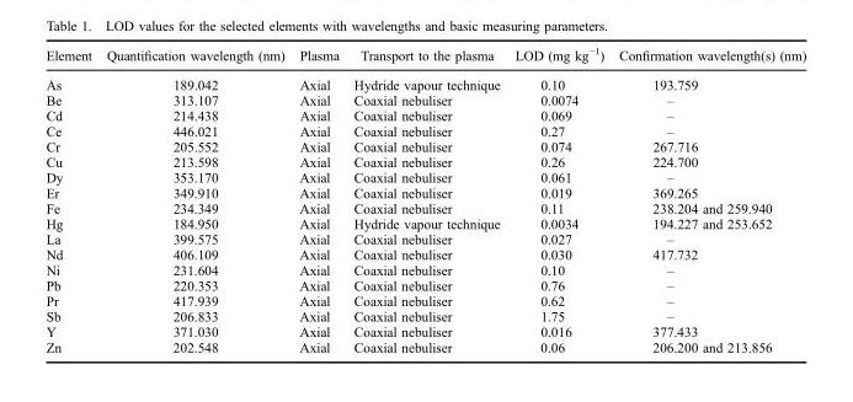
<table><thead><tr><td>Element</td><td>Quantification wavelength (nm)</td><td>Plasma</td><td>Transport to the plasma</td><td>LOD (mg kg<sup>−1</sup>)</td><td>Confirmation wavelength(s) (nm)</td></tr></thead><tbody><tr><td>As</td><td>189.042</td><td>Axial</td><td>Hydride vapour technique</td><td>0.10</td><td>193.759</td></tr><tr><td>Be</td><td>313.107</td><td>Axial</td><td>Coaxial nebuliser</td><td>0.0074</td><td>–</td></tr><tr><td>Cd</td><td>214.438</td><td>Axial</td><td>Coaxial nebuliser</td><td>0.069</td><td>–</td></tr><tr><td>Ce</td><td>446.021</td><td>Axial</td><td>Coaxial nebuliser</td><td>0.27</td><td>–</td></tr><tr><td>Cr</td><td>205.552</td><td>Axial</td><td>Coaxial nebuliser</td><td>0.074</td><td>267.716</td></tr><tr><td>Cu</td><td>213.598</td><td>Axial</td><td>Coaxial nebuliser</td><td>0.26</td><td>224.700</td></tr><tr><td>Dy</td><td>353.170</td><td>Axial</td><td>Coaxial nebuliser</td><td>0.061</td><td>–</td></tr><tr><td>Er</td><td>349.910</td><td>Axial</td><td>Coaxial nebuliser</td><td>0.019</td><td>369.265</td></tr><tr><td>Fe</td><td>234.349</td><td>Axial</td><td>Coaxial nebuliser</td><td>0.11</td><td>238.204 and 259.940</td></tr><tr><td>Hg</td><td>184.950</td><td>Axial</td><td>Hydride vapour technique</td><td>0.0034</td><td>194.227 and 253.652</td></tr><tr><td>La</td><td>399.575</td><td>Axial</td><td>Coaxial nebuliser</td><td>0.027</td><td>–</td></tr><tr><td>Nd</td><td>406.109</td><td>Axial</td><td>Coaxial nebuliser</td><td>0.030</td><td>417.732</td></tr><tr><td>Ni</td><td>231.604</td><td>Axial</td><td>Coaxial nebuliser</td><td>0.10</td><td>–</td></tr><tr><td>Pb</td><td>220.353</td><td>Axial</td><td>Coaxial nebuliser</td><td>0.76</td><td>–</td></tr><tr><td>Pr</td><td>417.939</td><td>Axial</td><td>Coaxial nebuliser</td><td>0.62</td><td>–</td></tr><tr><td>Sb</td><td>206.833</td><td>Axial</td><td>Coaxial nebuliser</td><td>1.75</td><td>–</td></tr><tr><td>Y</td><td>371.030</td><td>Axial</td><td>Coaxial nebuliser</td><td>0.016</td><td>377.433</td></tr><tr><td>Zn</td><td>202.548</td><td>Axial</td><td>Coaxial nebuliser</td><td>0.06</td><td>206.200 and 213.856</td></tr></tbody></table>